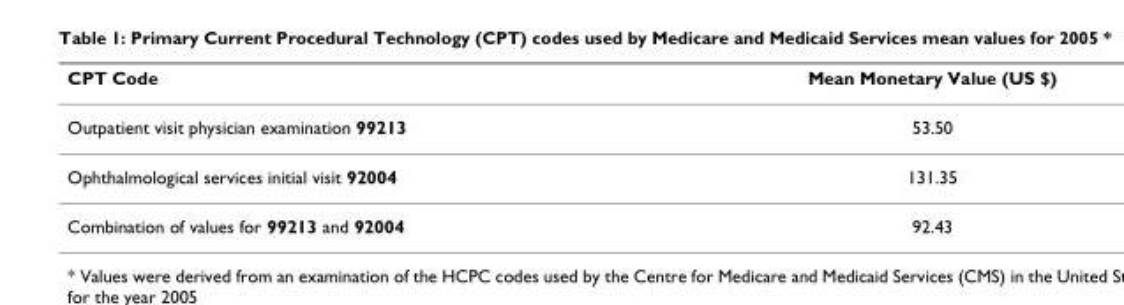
<table><thead><tr><td>CPT Code</td><td>Mean Monetary Value (US $)</td></tr></thead><tbody><tr><td>Outpatient visit physician examination 99213</td><td>53.50</td></tr><tr><td>Ophthalmological services initial visit 92004</td><td>131.35</td></tr><tr><td>Combination of values for 99213 and 92004</td><td>92.43</td></tr></tbody></table>